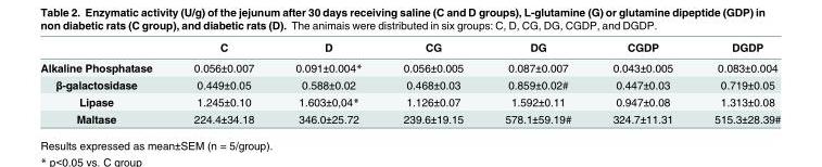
<table><thead><tr><td></td><td>C</td><td>D</td><td>CG</td><td>DG</td><td>CGDP</td><td>DGDP</td></tr></thead><tbody><tr><td>Alkaline Phosphatase</td><td>0.056±0.007</td><td>0.091±0.004*</td><td>0.056±0.005</td><td>0.087±0.007</td><td>0.043±0.005</td><td>0.083±0.004</td></tr><tr><td>β-galactosidase</td><td>0.449±0.05</td><td>0.588±0.02</td><td>0.468±0.03</td><td>0.859±0.02#</td><td>0.447±0.03</td><td>0.719±0.05</td></tr><tr><td>Lipase</td><td>1.245±0.10</td><td>1.603±0,04*</td><td>1.126±0.07</td><td>1.592±0.11</td><td>0.947±0.08</td><td>1.313±0.08</td></tr><tr><td>Maltase</td><td>224.4±34.18</td><td>346.0±25.72</td><td>239.6±19.15</td><td>578.1±59.19#</td><td>324.7±11.31</td><td>515.3±28.39#</td></tr></tbody></table>